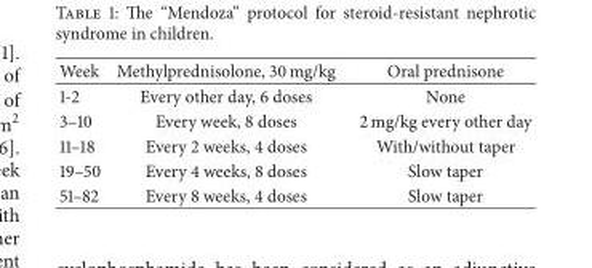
<table><thead><tr><td>Week</td><td>Methylprednisolone, 30 mg/kg</td><td>Oral prednisone</td></tr></thead><tbody><tr><td>1-2</td><td>Every other day, 6 doses</td><td>None</td></tr><tr><td>3–10</td><td>Every week, 8 doses</td><td>2 mg/kg every other day</td></tr><tr><td>11–18</td><td>Every 2 weeks, 4 doses</td><td>With/without taper</td></tr><tr><td>19–50</td><td>Every 4 weeks, 8 doses</td><td>Slow taper</td></tr><tr><td>51–82</td><td>Every 8 weeks, 4 doses</td><td>Slow taper</td></tr></tbody></table>